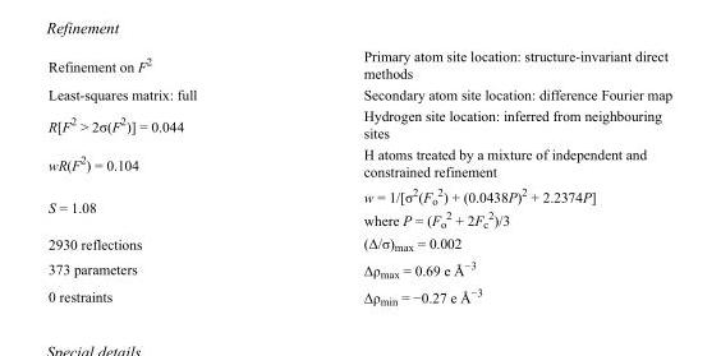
<table><tbody><tr><td>Refinement on F<sup>2</sup></td><td>Primary atom site location: structure-invariant direct methods</td></tr><tr><td>Least-squares matrix: full</td><td>Secondary atom site location: difference Fourier map</td></tr><tr><td>R[F<sup>2</sup> &gt; 2σ(F<sup>2</sup>)] = 0.044</td><td>Hydrogen site location: inferred from neighbouring sites</td></tr><tr><td>wR(F<sup>2</sup>) = 0.104</td><td>H atoms treated by a mixture of independent and constrained refinement</td></tr><tr><td>S = 1.08</td><td>w = 1/[σ<sup>2</sup>(F<sub>o</sub> <sup>2</sup>) + (0.0438P)<sup>2</sup> + 2.2374P] where P = (F<sub>o</sub> <sup>2</sup> + 2F<sub>c</sub> <sup>2</sup>)/3</td></tr><tr><td>2930 reflections</td><td>(Δ/σ)<sub>max</sub> = 0.002</td></tr><tr><td>373 parameters</td><td>Δρ<sub>max</sub> = 0.69 e Å<sup>−3</sup></td></tr><tr><td>0 restraints</td><td>Δρ<sub>min</sub> = −0.27 e Å<sup>−3</sup></td></tr></tbody></table>